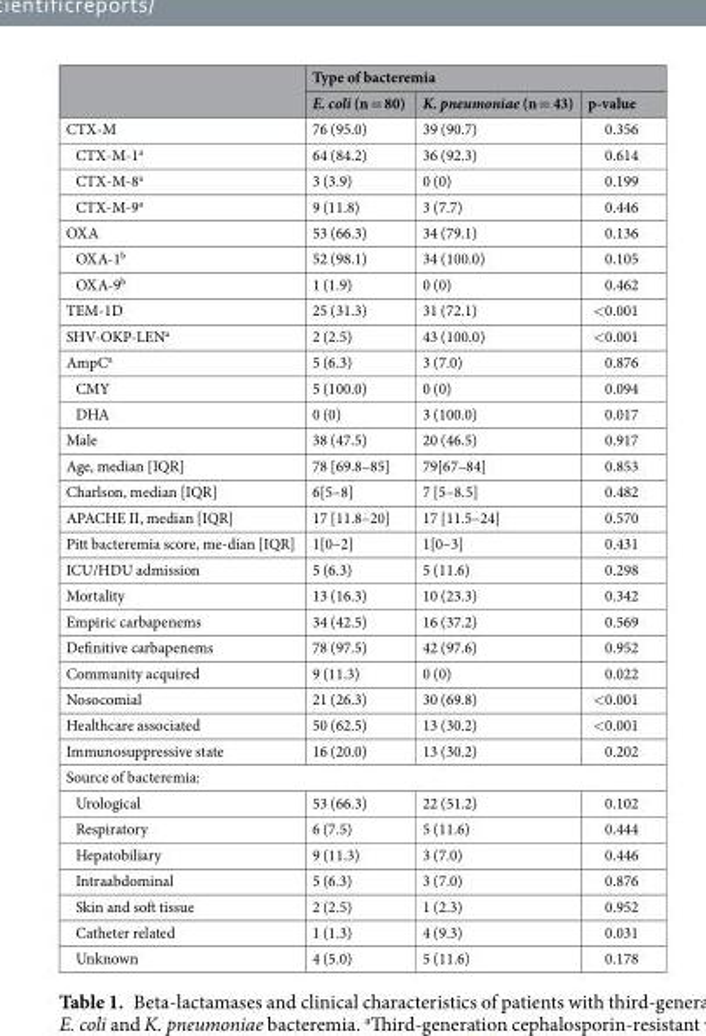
<table><thead><tr><td rowspan="2"></td><td colspan="3">Type of bacteremia</td></tr><tr><td>E. coli (n = 80)</td><td>K. pneumoniae (n = 43)</td><td>p-value</td></tr></thead><tbody><tr><td>CTX-M</td><td>76 (95.0)</td><td>39 (90.7)</td><td>0.356</td></tr><tr><td>CTX-M-1<sup>a</sup></td><td>64 (84.2)</td><td>36 (92.3)</td><td>0.614</td></tr><tr><td>CTX-M-8<sup>a</sup></td><td>3 (3.9)</td><td>0 (0)</td><td>0.199</td></tr><tr><td>CTX-M-9<sup>a</sup></td><td>9 (11.8)</td><td>3 (7.7)</td><td>0.446</td></tr><tr><td>OXA</td><td>53 (66.3)</td><td>34 (79.1)</td><td>0.136</td></tr><tr><td>OXA-1<sup>b</sup></td><td>52 (98.1)</td><td>34 (100.0)</td><td>0.105</td></tr><tr><td>OXA-9<sup>b</sup></td><td>1 (1.9)</td><td>0 (0)</td><td>0.462</td></tr><tr><td>TEM-1D</td><td>25 (31.3)</td><td>31 (72.1)</td><td>&lt;0.001</td></tr><tr><td>SHV-OKP-LEN<sup>a</sup></td><td>2 (2.5)</td><td>43 (100.0)</td><td>&lt;0.001</td></tr><tr><td>AmpC<sup>a</sup></td><td>5 (6.3)</td><td>3 (7.0)</td><td>0.876</td></tr><tr><td>CMY</td><td>5 (100.0)</td><td>0 (0)</td><td>0.094</td></tr><tr><td>DHA</td><td>0 (0)</td><td>3 (100.0)</td><td>0.017</td></tr><tr><td>Male</td><td>38 (47.5)</td><td>20 (46.5)</td><td>0.917</td></tr><tr><td>Age, median [IQR]</td><td>78 [69.8–85]</td><td>79[67–84]</td><td>0.853</td></tr><tr><td>Charlson, median [IQR]</td><td>6[5–8]</td><td>7 [5–8.5]</td><td>0.482</td></tr><tr><td>APACHE II, median [IQR]</td><td>17 [11.8–20]</td><td>17 [11.5–24]</td><td>0.570</td></tr><tr><td>Pitt bacteremia score, me-dian [IQR]</td><td>1[0–2]</td><td>1[0–3]</td><td>0.431</td></tr><tr><td>ICU/HDU admission</td><td>5 (6.3)</td><td>5 (11.6)</td><td>0.298</td></tr><tr><td>Mortality</td><td>13 (16.3)</td><td>10 (23.3)</td><td>0.342</td></tr><tr><td>Empiric carbapenems</td><td>34 (42.5)</td><td>16 (37.2)</td><td>0.569</td></tr><tr><td>Definitive carbapenems</td><td>78 (97.5)</td><td>42 (97.6)</td><td>0.952</td></tr><tr><td>Community acquired</td><td>9 (11.3)</td><td>0 (0)</td><td>0.022</td></tr><tr><td>Nosocomial</td><td>21 (26.3)</td><td>30 (69.8)</td><td>&lt;0.001</td></tr><tr><td>Healthcare associated</td><td>50 (62.5)</td><td>13 (30.2)</td><td>&lt;0.001</td></tr><tr><td>Immunosuppressive state</td><td>16 (20.0)</td><td>13 (30.2)</td><td>0.202</td></tr><tr><td colspan="4">Source of bacteremia:</td></tr><tr><td>Urological</td><td>53 (66.3)</td><td>22 (51.2)</td><td>0.102</td></tr><tr><td>Respiratory</td><td>6 (7.5)</td><td>5 (11.6)</td><td>0.444</td></tr><tr><td>Hepatobiliary</td><td>9 (11.3)</td><td>3 (7.0)</td><td>0.446</td></tr><tr><td>Intraabdominal</td><td>5 (6.3)</td><td>3 (7.0)</td><td>0.876</td></tr><tr><td>Skin and soft tissue</td><td>2 (2.5)</td><td>1 (2.3)</td><td>0.952</td></tr><tr><td>Catheter related</td><td>1 (1.3)</td><td>4 (9.3)</td><td>0.031</td></tr><tr><td>Unknown</td><td>4 (5.0)</td><td>5 (11.6)</td><td>0.178</td></tr></tbody></table>